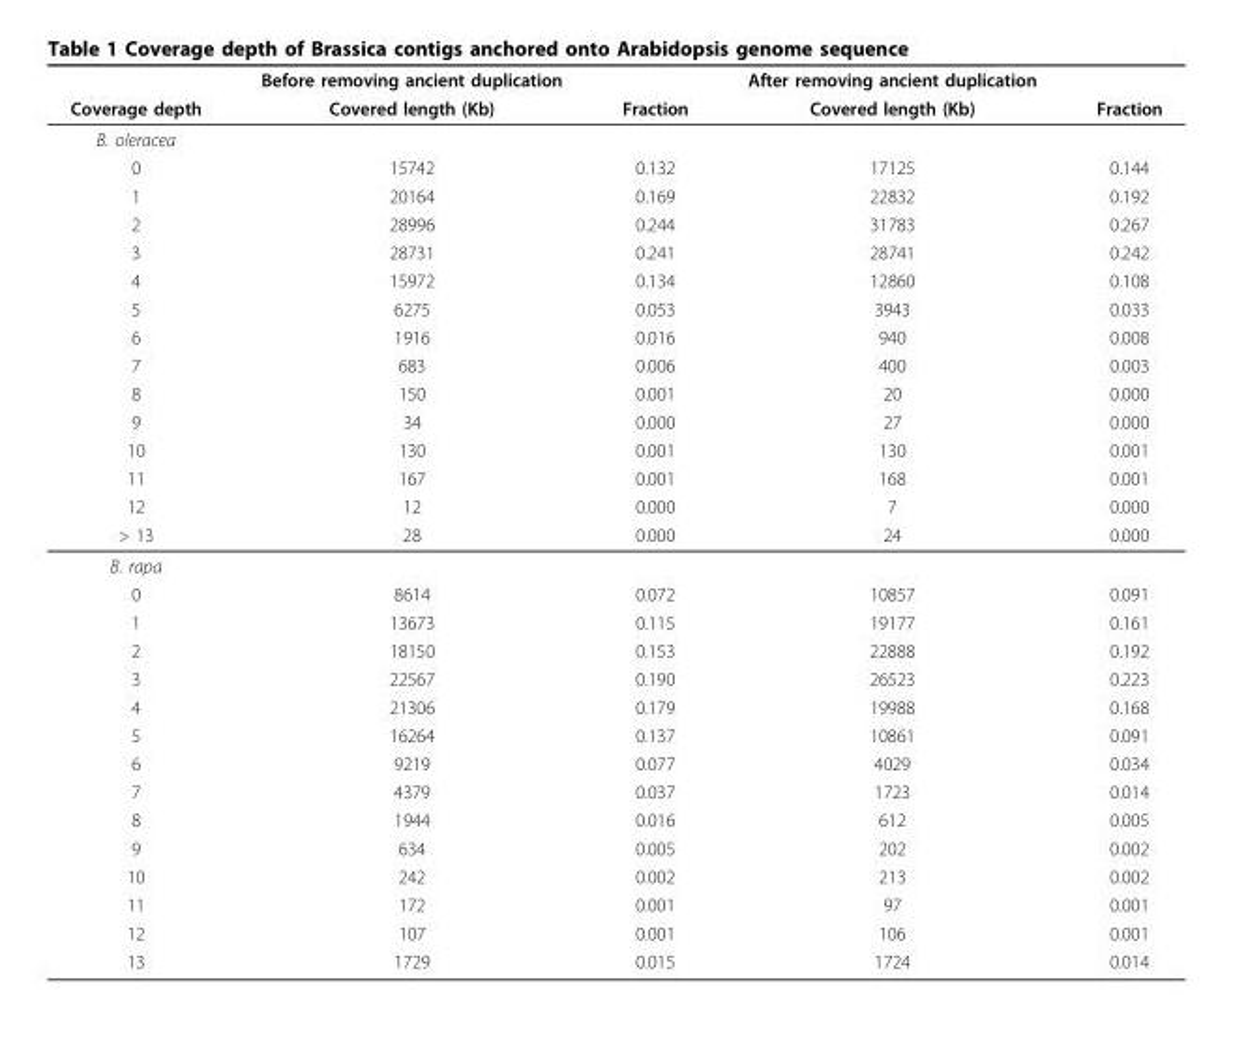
<table><thead><tr><td rowspan="2">Coverage depth</td><td rowspan="2">Before removing ancient duplication Covered length (Kb)</td><td rowspan="2">Fraction</td><td rowspan="2">After removing ancient duplication Covered length (Kb)</td><td rowspan="2">Fraction</td></tr><tr></tr></thead><tbody><tr><td colspan="5">B. oleracea</td></tr><tr><td>0</td><td>15742</td><td>0.132</td><td>17125</td><td>0.144</td></tr><tr><td>1</td><td>20164</td><td>0.169</td><td>22832</td><td>0.192</td></tr><tr><td>2</td><td>28996</td><td>0.244</td><td>31783</td><td>0.267</td></tr><tr><td>3</td><td>28731</td><td>0.241</td><td>28741</td><td>0.242</td></tr><tr><td>4</td><td>15972</td><td>0.134</td><td>12860</td><td>0.108</td></tr><tr><td>5</td><td>6275</td><td>0.053</td><td>3943</td><td>0.033</td></tr><tr><td>6</td><td>1916</td><td>0.016</td><td>940</td><td>0.008</td></tr><tr><td>7</td><td>683</td><td>0.006</td><td>400</td><td>0.003</td></tr><tr><td>8</td><td>150</td><td>0.001</td><td>20</td><td>0.000</td></tr><tr><td>9</td><td>34</td><td>0.000</td><td>27</td><td>0.000</td></tr><tr><td>10</td><td>130</td><td>0.001</td><td>130</td><td>0.001</td></tr><tr><td>11</td><td>167</td><td>0.001</td><td>168</td><td>0.001</td></tr><tr><td>12</td><td>12</td><td>0.000</td><td>7</td><td>0.000</td></tr><tr><td>&gt; 13</td><td>28</td><td>0.000</td><td>24</td><td>0.000</td></tr><tr><td colspan="5">B. rapa</td></tr><tr><td>0</td><td>8614</td><td>0.072</td><td>10857</td><td>0.091</td></tr><tr><td>1</td><td>13673</td><td>0.115</td><td>19177</td><td>0.161</td></tr><tr><td>2</td><td>18150</td><td>0.153</td><td>22888</td><td>0.192</td></tr><tr><td>3</td><td>22567</td><td>0.190</td><td>26523</td><td>0.223</td></tr><tr><td>4</td><td>21306</td><td>0.179</td><td>19988</td><td>0.168</td></tr><tr><td>5</td><td>16264</td><td>0.137</td><td>10861</td><td>0.091</td></tr><tr><td>6</td><td>9219</td><td>0.077</td><td>4029</td><td>0.034</td></tr><tr><td>7</td><td>4379</td><td>0.037</td><td>1723</td><td>0.014</td></tr><tr><td>8</td><td>1944</td><td>0.016</td><td>612</td><td>0.005</td></tr><tr><td>9</td><td>634</td><td>0.005</td><td>202</td><td>0.002</td></tr><tr><td>10</td><td>242</td><td>0.002</td><td>213</td><td>0.002</td></tr><tr><td>11</td><td>172</td><td>0.001</td><td>97</td><td>0.001</td></tr><tr><td>12</td><td>107</td><td>0.001</td><td>106</td><td>0.001</td></tr><tr><td>13</td><td>1729</td><td>0.015</td><td>1724</td><td>0.014</td></tr></tbody></table>